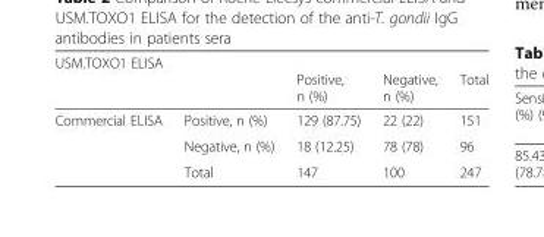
<table><thead><tr><td colspan="5">USM.TOXO1 ELISA</td></tr><tr><td></td><td></td><td>Positive, n (%)</td><td>Negative, n (%)</td><td>Total</td></tr></thead><tbody><tr><td rowspan="3">Commercial ELISA</td><td>Positive, n (%)</td><td>129 (87.75)</td><td>22 (22)</td><td>151</td></tr><tr><td>Negative, n (%)</td><td>18 (12.25)</td><td>78 (78)</td><td>96</td></tr><tr><td>Total</td><td>147</td><td>100</td><td>247</td></tr></tbody></table>